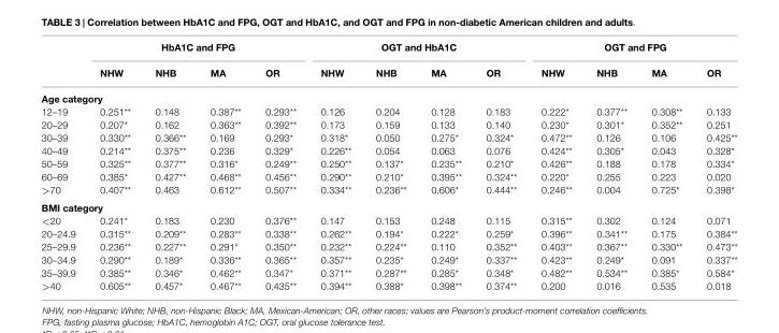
<table><thead><tr><td rowspan="2"></td><td colspan="4">HbA1C and FPG</td><td colspan="4">OGT and HbA1C</td><td colspan="4">OGT and FPG</td></tr><tr><td>NHW</td><td>NHB</td><td>MA</td><td>OR</td><td>NHW</td><td>NHB</td><td>MA</td><td>OR</td><td>NHW</td><td>NHB</td><td>MA</td><td>OR</td></tr></thead><tbody><tr><td colspan="13">Age category</td></tr><tr><td>12–19</td><td>0.251**</td><td>0.148</td><td>0.387**</td><td>0.293**</td><td>0.126</td><td>0.204</td><td>0.128</td><td>0.183</td><td>0.222*</td><td>0.377**</td><td>0.308**</td><td>0.133</td></tr><tr><td>20–29</td><td>0.207*</td><td>0.162</td><td>0.363**</td><td>0.392**</td><td>0.173</td><td>0.159</td><td>0.133</td><td>0.140</td><td>0.230*</td><td>0.301*</td><td>0.352**</td><td>0.251</td></tr><tr><td>30–39</td><td>0.330**</td><td>0.366**</td><td>0.169</td><td>0.293*</td><td>0.318*</td><td>0.050</td><td>0.275*</td><td>0.324*</td><td>0.472**</td><td>0.126</td><td>0.106</td><td>0.425**</td></tr><tr><td>40–49</td><td>0.214**</td><td>0.375**</td><td>0.236</td><td>0.329*</td><td>0.226**</td><td>0.054</td><td>0.063</td><td>0.076</td><td>0.424**</td><td>0.305*</td><td>0.043</td><td>0.328*</td></tr><tr><td>50–59</td><td>0.325**</td><td>0.377**</td><td>0.316*</td><td>0.249**</td><td>0.250**</td><td>0.137*</td><td>0.235**</td><td>0.210*</td><td>0.426**</td><td>0.188</td><td>0.178</td><td>0.334*</td></tr><tr><td>60–69</td><td>0.385*</td><td>0.427**</td><td>0.468**</td><td>0.456**</td><td>0.290**</td><td>0.210*</td><td>0.395**</td><td>0.324**</td><td>0.220*</td><td>0.255</td><td>0.223</td><td>0.020</td></tr><tr><td>&gt;70</td><td>0.407**</td><td>0.463</td><td>0.612**</td><td>0.507**</td><td>0.334**</td><td>0.236**</td><td>0.606*</td><td>0.444**</td><td>0.246**</td><td>0.004</td><td>0.725*</td><td>0.398*</td></tr><tr><td colspan="13">BMI category</td></tr><tr><td>&lt;20</td><td>0.241*</td><td>0.183</td><td>0.230</td><td>0.376**</td><td>0.147</td><td>0.153</td><td>0.248</td><td>0.115</td><td>0.315**</td><td>0.302</td><td>0.124</td><td>0.071</td></tr><tr><td>20–24.9</td><td>0.315**</td><td>0.209**</td><td>0.283**</td><td>0.338**</td><td>0.262**</td><td>0.194*</td><td>0.222*</td><td>0.259*</td><td>0.396**</td><td>0.341**</td><td>0.175</td><td>0.384**</td></tr><tr><td>25–29.9</td><td>0.236**</td><td>0.227**</td><td>0.291*</td><td>0.350**</td><td>0.232**</td><td>0.224**</td><td>0.110</td><td>0.352**</td><td>0.403**</td><td>0.367**</td><td>0.330**</td><td>0.473**</td></tr><tr><td>30–34.9</td><td>0.290**</td><td>0.189*</td><td>0.336**</td><td>0.365**</td><td>0.357**</td><td>0.235*</td><td>0.249*</td><td>0.337**</td><td>0.423**</td><td>0.249*</td><td>0.091</td><td>0.337**</td></tr><tr><td>35–39.9</td><td>0.385**</td><td>0.346*</td><td>0.462**</td><td>0.347*</td><td>0.371**</td><td>0.287**</td><td>0.285*</td><td>0.348*</td><td>0.482**</td><td>0.534**</td><td>0.385*</td><td>0.584*</td></tr><tr><td>&gt;40</td><td>0.605**</td><td>0.457*</td><td>0.467**</td><td>0.435**</td><td>0.394**</td><td>0.388*</td><td>0.398**</td><td>0.374**</td><td>0.200</td><td>0.016</td><td>0.535</td><td>0.018</td></tr></tbody></table>